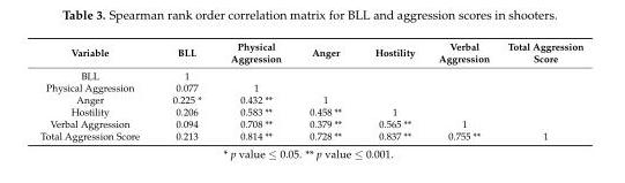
<table><thead><tr><td>Variable</td><td>BLL</td><td>Physical Aggression</td><td>Anger</td><td>Hostility</td><td>Verbal Aggression</td><td>Total Aggression Score</td></tr></thead><tbody><tr><td>BLL</td><td>1</td><td></td><td></td><td></td><td></td><td></td></tr><tr><td>Physical Aggression</td><td>0.077</td><td>1</td><td></td><td></td><td></td><td></td></tr><tr><td>Anger</td><td>0.225 *</td><td>0.432 **</td><td>1</td><td></td><td></td><td></td></tr><tr><td>Hostility</td><td>0.206</td><td>0.583 **</td><td>0.458 **</td><td>1</td><td></td><td></td></tr><tr><td>Verbal Aggression</td><td>0.094</td><td>0.708 **</td><td>0.379 **</td><td>0.565 **</td><td>1</td><td></td></tr><tr><td>Total Aggression Score</td><td>0.213</td><td>0.814 **</td><td>0.728 **</td><td>0.837 **</td><td>0.755 **</td><td>1</td></tr></tbody></table>